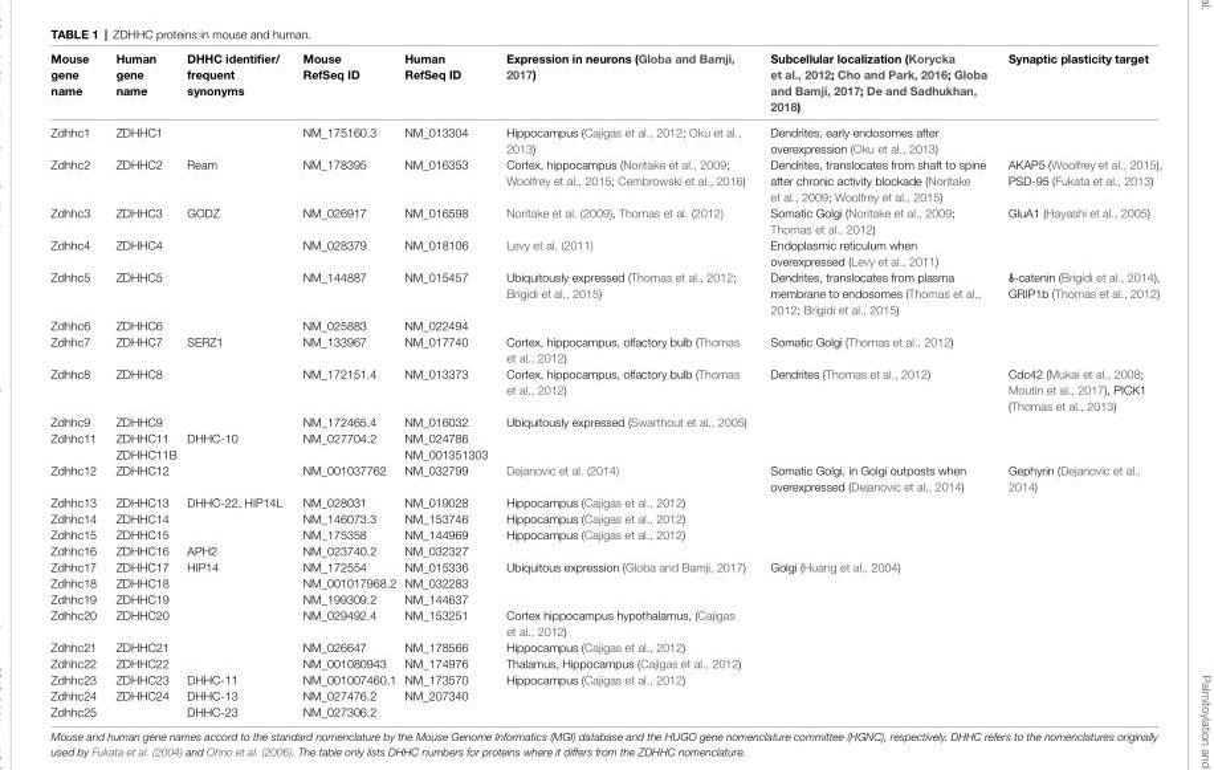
<table><thead><tr><td>Mouse gene name</td><td>Human gene name</td><td>DHHC identifier/ frequent synonyms</td><td>Mouse RefSeq ID</td><td>Human RefSeq ID</td><td>Expression in neurons (Globa and Bamji, 2017)</td><td>Subcellular localization (Korycka et al., 2012; Cho and Park, 2016; Globa and Bamji, 2017; De and Sadhukhan, 2018)</td><td>Synaptic plasticity target</td></tr></thead><tbody><tr><td>Zdhhc1</td><td>ZDHHC1</td><td></td><td>NM_175160.3</td><td>NM_013304</td><td>Hippocampus (Cajigas et al., 2012; Oku et al., 2013)</td><td>Dendrites, early endosomes after overexpression (Oku et al., 2013)</td><td></td></tr><tr><td>Zdhhc2</td><td>ZDHHC2</td><td>Ream</td><td>NM_178395</td><td>NM_016353</td><td>Cortex, hippocampus (Noritake et al., 2009; Woolfrey et al., 2015; Cembrowski et al., 2016)</td><td>Dendrites, translocates from shaft to spine after chronic activity blockade (Noritake et al., 2009; Woolfrey et al., 2015)</td><td>AKAP5 (Woolfrey et al., 2015), PSD-95 (Fukata et al., 2013)</td></tr><tr><td>Zdhhc3</td><td>ZDHHC3</td><td>GODZ</td><td>NM_026917</td><td>NM_016598</td><td>Noritake et al. (2009), Thomas et al. (2012)</td><td>Somatic Golgi (Noritake et al., 2009; Thomas et al., 2012)</td><td>GluA1 (Hayashi et al., 2005)</td></tr><tr><td>Zdhhc4</td><td>ZDHHC4</td><td></td><td>NM_028379</td><td>NM_018106</td><td>Levy et al. (2011)</td><td>Endoplasmic reticulum when overexpressed (Levy et al., 2011)</td><td></td></tr><tr><td>Zdhhc5</td><td>ZDHHC5</td><td></td><td>NM_144887</td><td>NM_015457</td><td>Ubiquitously expressed (Thomas et al., 2012; Brigidi et al., 2015)</td><td>Dendrites, translocates from plasma membrane to endosomes (Thomas et al., 2012; Brigidi et al., 2015)</td><td>δ-catenin (Brigidi et al., 2014), GRIP1b (Thomas et al., 2012)</td></tr><tr><td>Zdhhc6</td><td>ZDHHC6</td><td></td><td>NM_025883</td><td>NM_022494</td><td></td><td></td><td></td></tr><tr><td>Zdhhc7</td><td>ZDHHC7</td><td>SERZ1</td><td>NM_133967</td><td>NM_017740</td><td>Cortex, hippocampus, olfactory bulb (Thomas et al., 2012)</td><td>Somatic Golgi (Thomas et al., 2012)</td><td></td></tr><tr><td>Zdhhc8</td><td>ZDHHC8</td><td></td><td>NM_172151.4</td><td>NM_013373</td><td>Cortex, hippocampus, olfactory bulb (Thomas et al., 2012)</td><td>Dendrites (Thomas et al., 2012)</td><td>Cdc42 (Mukai et al., 2008; Moutin et al., 2017), PICK1 (Thomas et al., 2013)</td></tr><tr><td>Zdhhc9</td><td>ZDHHC9</td><td></td><td>NM_172465.4</td><td>NM_016032</td><td>Ubiquitously expressed (Swarthout et al., 2005)</td><td></td><td></td></tr><tr><td rowspan="2">Zdhhc11</td><td>ZDHHC11</td><td>DHHC-10</td><td>NM_027704.2</td><td>NM_024786</td><td></td><td></td><td></td></tr><tr><td>ZDHHC11B</td><td></td><td></td><td>NM_001351303</td><td></td><td></td><td></td></tr><tr><td>Zdhhc12</td><td>ZDHHC12</td><td></td><td>NM_001037762</td><td>NM_032799</td><td>Dejanovic et al. (2014)</td><td>Somatic Golgi, in Golgi outposts when overexpressed (Dejanovic et al., 2014)</td><td>Gephyrin (Dejanovic et al., 2014)</td></tr><tr><td>Zdhhc13</td><td>ZDHHC13</td><td>DHHC-22, HIP14L</td><td>NM_028031</td><td>NM_019028</td><td>Hippocampus (Cajigas et al., 2012)</td><td></td><td></td></tr><tr><td>Zdhhc14</td><td>ZDHHC14</td><td></td><td>NM_146073.3</td><td>NM_153746</td><td>Hippocampus (Cajigas et al., 2012)</td><td></td><td></td></tr><tr><td>Zdhhc15</td><td>ZDHHC15</td><td></td><td>NM_175358</td><td>NM_144969</td><td>Hippocampus (Cajigas et al., 2012)</td><td></td><td></td></tr><tr><td>Zdhhc16</td><td>ZDHHC16</td><td>APH2</td><td>NM_023740.2</td><td>NM_032327</td><td></td><td></td><td></td></tr><tr><td>Zdhhc17</td><td>ZDHHC17</td><td>HIP14</td><td>NM_172554</td><td>NM_015336</td><td>Ubiquitous expression (Globa and Bamji, 2017)</td><td>Golgi (Huang et al., 2004)</td><td></td></tr><tr><td>Zdhhc18</td><td>ZDHHC18</td><td></td><td>NM_001017968.2</td><td>NM_032283</td><td></td><td></td><td></td></tr><tr><td>Zdhhc19</td><td>ZDHHC19</td><td></td><td>NM_199309.2</td><td>NM_144637</td><td></td><td></td><td></td></tr><tr><td>Zdhhc20</td><td>ZDHHC20</td><td></td><td>NM_029492.4</td><td>NM_153251</td><td>Cortex hippocampus hypothalamus, (Cajigas et al., 2012)</td><td></td><td></td></tr><tr><td>Zdhhc21</td><td>ZDHHC21</td><td></td><td>NM_026647</td><td>NM_178566</td><td>Hippocampus (Cajigas et al., 2012)</td><td></td><td></td></tr><tr><td>Zdhhc22</td><td>ZDHHC22</td><td></td><td>NM_001080943</td><td>NM_174976</td><td>Thalamus, Hippocampus (Cajigas et al., 2012)</td><td></td><td></td></tr><tr><td>Zdhhc23</td><td>ZDHHC23</td><td>DHHC-11</td><td>NM_001007460.1</td><td>NM_173570</td><td>Hippocampus (Cajigas et al., 2012)</td><td></td><td></td></tr><tr><td>Zdhhc24</td><td>ZDHHC24</td><td>DHHC-13</td><td>NM_027476.2</td><td>NM_207340</td><td></td><td></td><td></td></tr><tr><td>Zdhhc25</td><td></td><td>DHHC-23</td><td>NM_027306.2</td><td></td><td></td><td></td><td></td></tr></tbody></table>